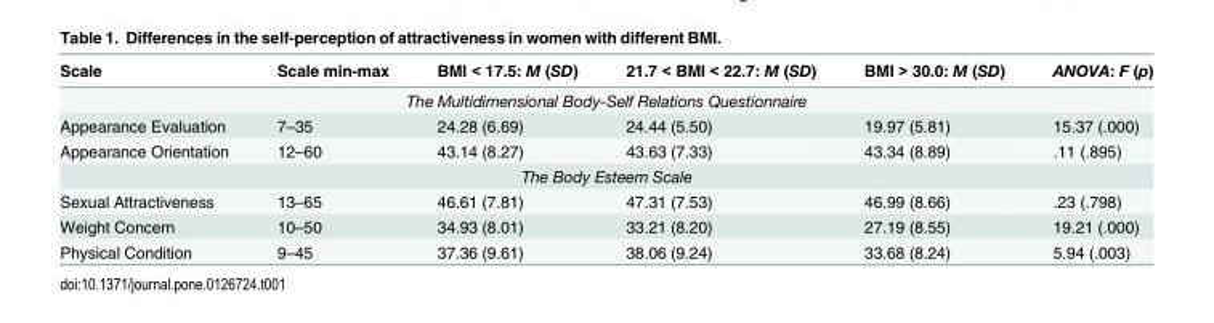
<table><thead><tr><td>Scale</td><td>Scale min-max</td><td>BMI &lt; 17.5: M (SD)</td><td>21.7 &lt; BMI &lt; 22.7: M (SD)</td><td>BMI &gt; 30.0: M (SD)</td><td>ANOVA: F (p)</td></tr></thead><tbody><tr><td colspan="6">The Multidimensional Body-Self Relations Questionnaire</td></tr><tr><td>Appearance Evaluation</td><td>7–35</td><td>24.28 (6.69)</td><td>24.44 (5.50)</td><td>19.97 (5.81)</td><td>15.37 (.000)</td></tr><tr><td>Appearance Orientation</td><td>12–60</td><td>43.14 (8.27)</td><td>43.63 (7.33)</td><td>43.34 (8.89)</td><td>.11 (.895)</td></tr><tr><td colspan="6">The Body Esteem Scale</td></tr><tr><td>Sexual Attractiveness</td><td>13–65</td><td>46.61 (7.81)</td><td>47.31 (7.53)</td><td>46.99 (8.66)</td><td>.23 (.798)</td></tr><tr><td>Weight Concern</td><td>10–50</td><td>34.93 (8.01)</td><td>33.21 (8.20)</td><td>27.19 (8.55)</td><td>19.21 (.000)</td></tr><tr><td>Physical Condition</td><td>9–45</td><td>37.36 (9.61)</td><td>38.06 (9.24)</td><td>33.68 (8.24)</td><td>5.94 (.003)</td></tr></tbody></table>